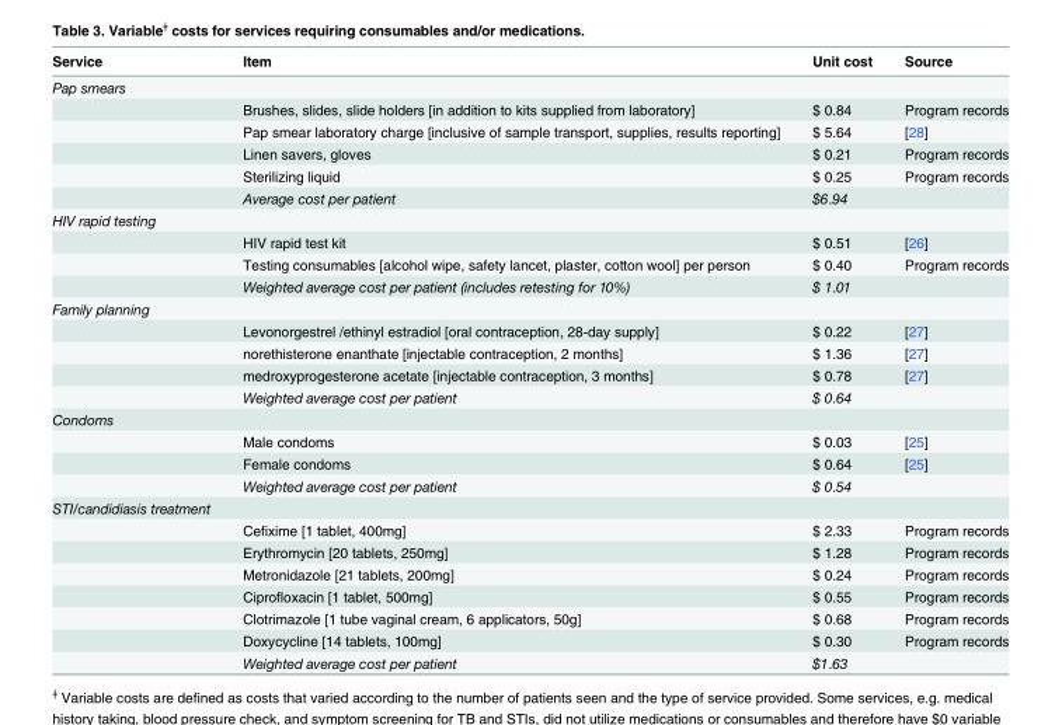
<table><thead><tr><td>Service</td><td>Item</td><td>Unit cost</td><td>Source</td></tr></thead><tbody><tr><td colspan="4">Pap smears</td></tr><tr><td></td><td>Brushes, slides, slide holders [in addition to kits supplied from laboratory]</td><td>$ 0.84</td><td>Program records</td></tr><tr><td></td><td>Pap smear laboratory charge [inclusive of sample transport, supplies, results reporting]</td><td>$ 5.64</td><td>[28]</td></tr><tr><td></td><td>Linen savers, gloves</td><td>$ 0.21</td><td>Program records</td></tr><tr><td></td><td>Sterilizing liquid</td><td>$ 0.25</td><td>Program records</td></tr><tr><td></td><td>Average cost per patient</td><td>$6.94</td><td></td></tr><tr><td colspan="4">HIV rapid testing</td></tr><tr><td></td><td>HIV rapid test kit</td><td>$ 0.51</td><td>[26]</td></tr><tr><td></td><td>Testing consumables [alcohol wipe, safety lancet, plaster, cotton wool] per person</td><td>$ 0.40</td><td>Program records</td></tr><tr><td></td><td>Weighted average cost per patient (includes retesting for 10%)</td><td>$ 1.01</td><td></td></tr><tr><td colspan="4">Family planning</td></tr><tr><td></td><td>Levonorgestrel /ethinyl estradiol [oral contraception, 28-day supply]</td><td>$ 0.22</td><td>[27]</td></tr><tr><td></td><td>norethisterone enanthate [injectable contraception, 2 months]</td><td>$ 1.36</td><td>[27]</td></tr><tr><td></td><td>medroxyprogesterone acetate [injectable contraception, 3 months]</td><td>$ 0.78</td><td>[27]</td></tr><tr><td></td><td>Weighted average cost per patient</td><td>$ 0.64</td><td></td></tr><tr><td colspan="4">Condoms</td></tr><tr><td></td><td>Male condoms</td><td>$ 0.03</td><td>[25]</td></tr><tr><td></td><td>Female condoms</td><td>$ 0.64</td><td>[25]</td></tr><tr><td></td><td>Weighted average cost per patient</td><td>$ 0.54</td><td></td></tr><tr><td colspan="4">STI/candidiasis treatment</td></tr><tr><td></td><td>Cefixime [1 tablet, 400mg]</td><td>$ 2.33</td><td>Program records</td></tr><tr><td></td><td>Erythromycin [20 tablets, 250mg]</td><td>$ 1.28</td><td>Program records</td></tr><tr><td></td><td>Metronidazole [21 tablets, 200mg]</td><td>$ 0.24</td><td>Program records</td></tr><tr><td></td><td>Ciprofloxacin [1 tablet, 500mg]</td><td>$ 0.55</td><td>Program records</td></tr><tr><td></td><td>Clotrimazole [1 tube vaginal cream, 6 applicators, 50g]</td><td>$ 0.68</td><td>Program records</td></tr><tr><td></td><td>Doxycycline [14 tablets, 100mg]</td><td>$ 0.30</td><td>Program records</td></tr><tr><td></td><td>Weighted average cost per patient</td><td>$1.63</td><td></td></tr></tbody></table>